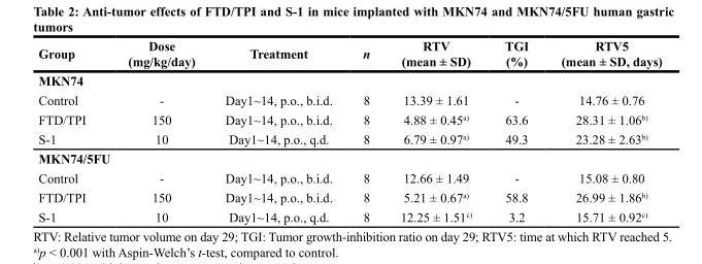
<table><thead><tr><td>Group</td><td>Dose (mg/kg/day)</td><td>Treatment</td><td>n</td><td>RTV (mean ± SD)</td><td>TGI (%)</td><td>RTV5 (mean ± SD, days)</td></tr></thead><tbody><tr><td colspan="7">MKN74</td></tr><tr><td>Control</td><td>-</td><td>Day1~14, p.o., b.i.d.</td><td>8</td><td>13.39 ± 1.61</td><td>-</td><td>14.76 ± 0.76</td></tr><tr><td>FTD/TPI</td><td>150</td><td>Day1~14, p.o., b.i.d.</td><td>8</td><td>4.88 ± 0.45<sup>a)</sup></td><td>63.6</td><td>28.31 ± 1.06<sup>b)</sup></td></tr><tr><td>S-1</td><td>10</td><td>Day1~14, p.o., q.d.</td><td>8</td><td>6.79 ± 0.97<sup>a)</sup></td><td>49.3</td><td>23.28 ± 2.63<sup>b)</sup></td></tr><tr><td colspan="7">MKN74/5FU</td></tr><tr><td>Control</td><td>-</td><td>Day1~14, p.o., b.i.d.</td><td>8</td><td>12.66 ± 1.49</td><td>-</td><td>15.08 ± 0.80</td></tr><tr><td>FTD/TPI</td><td>150</td><td>Day1~14, p.o., b.i.d.</td><td>8</td><td>5.21 ± 0.67<sup>a)</sup></td><td>58.8</td><td>26.99 ± 1.86<sup>b)</sup></td></tr><tr><td>S-1</td><td>10</td><td>Day1~14, p.o., q.d.</td><td>8</td><td>12.25 ± 1.51<sup>c)</sup></td><td>3.2</td><td>15.71 ± 0.92<sup>c)</sup></td></tr></tbody></table>